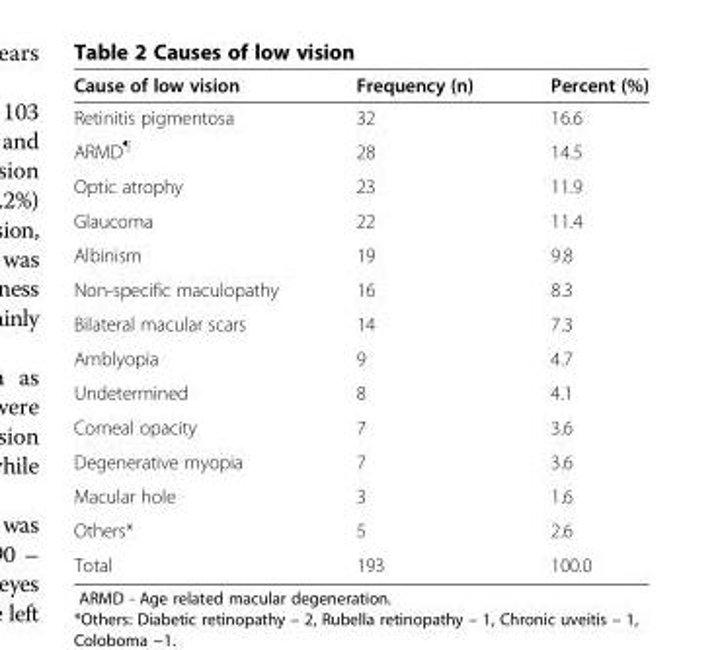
<table><thead><tr><td>Cause of low vision</td><td>Frequency (n)</td><td>Percent (%)</td></tr></thead><tbody><tr><td>Retinitis pigmentosa</td><td>32</td><td>16.6</td></tr><tr><td>ARMD<sup>¶</sup></td><td>28</td><td>14.5</td></tr><tr><td>Optic atrophy</td><td>23</td><td>11.9</td></tr><tr><td>Glaucoma</td><td>22</td><td>11.4</td></tr><tr><td>Albinism</td><td>19</td><td>9.8</td></tr><tr><td>Non-specific maculopathy</td><td>16</td><td>8.3</td></tr><tr><td>Bilateral macular scars</td><td>14</td><td>7.3</td></tr><tr><td>Amblyopia</td><td>9</td><td>4.7</td></tr><tr><td>Undetermined</td><td>8</td><td>4.1</td></tr><tr><td>Corneal opacity</td><td>7</td><td>3.6</td></tr><tr><td>Degenerative myopia</td><td>7</td><td>3.6</td></tr><tr><td>Macular hole</td><td>3</td><td>1.6</td></tr><tr><td>Others*</td><td>5</td><td>2.6</td></tr><tr><td>Total</td><td>193</td><td>100.0</td></tr></tbody></table>